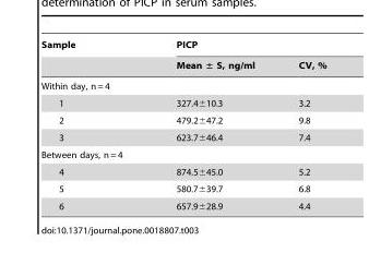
<table><thead><tr><td rowspan="2">Sample</td><td colspan="2">PICP</td></tr><tr><td>Mean ± S, ng/ml</td><td>CV, %</td></tr></thead><tbody><tr><td colspan="3">Within day, n = 4</td></tr><tr><td>1</td><td>327.4±10.3</td><td>3.2</td></tr><tr><td>2</td><td>479.2±47.2</td><td>9.8</td></tr><tr><td>3</td><td>623.7±46.4</td><td>7.4</td></tr><tr><td colspan="3">Between days, n = 4</td></tr><tr><td>4</td><td>874.5±45.0</td><td>5.2</td></tr><tr><td>5</td><td>580.7±39.7</td><td>6.8</td></tr><tr><td>6</td><td>657.9±28.9</td><td>4.4</td></tr></tbody></table>